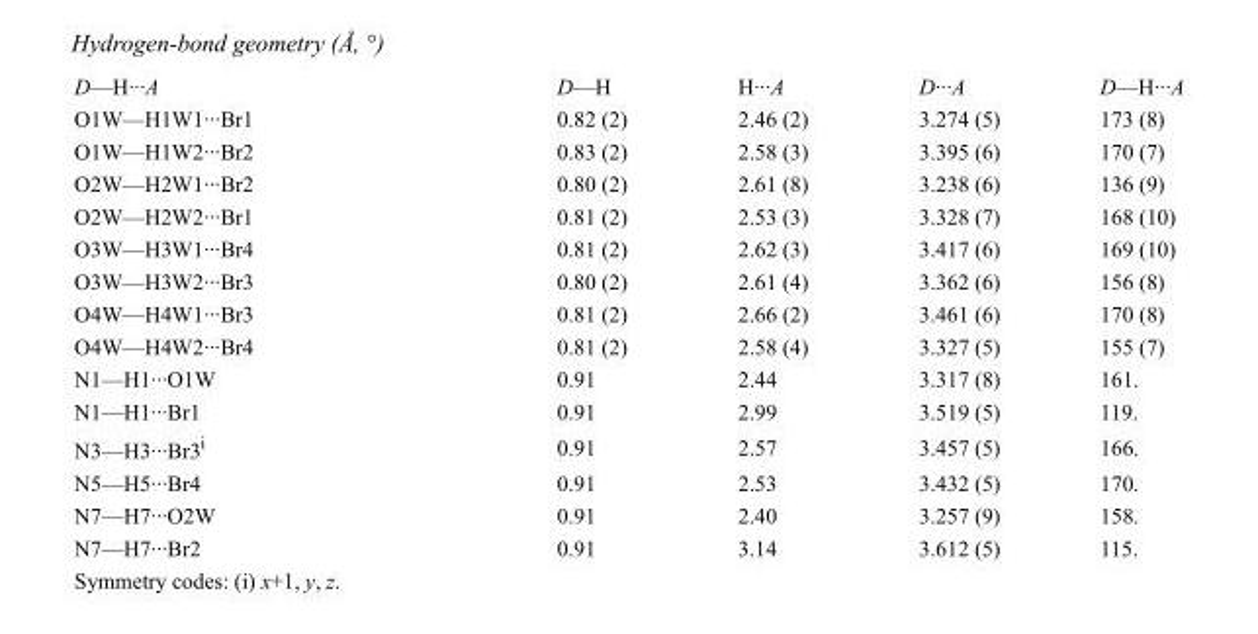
<table><tbody><tr><td>D—H···A</td><td>D—H</td><td>H···A</td><td>D···A</td><td>D—H···A</td></tr><tr><td>O1W—H1W1···Br1</td><td>0.82 (2)</td><td>2.46 (2)</td><td>3.274 (5)</td><td>173 (8)</td></tr><tr><td>O1W—H1W2···Br2</td><td>0.83 (2)</td><td>2.58 (3)</td><td>3.395 (6)</td><td>170 (7)</td></tr><tr><td>O2W—H2W1···Br2</td><td>0.80 (2)</td><td>2.61 (8)</td><td>3.238 (6)</td><td>136 (9)</td></tr><tr><td>O2W—H2W2···Br1</td><td>0.81 (2)</td><td>2.53 (3)</td><td>3.328 (7)</td><td>168 (10)</td></tr><tr><td>O3W—H3W1···Br4</td><td>0.81 (2)</td><td>2.62 (3)</td><td>3.417 (6)</td><td>169 (10)</td></tr><tr><td>O3W—H3W2···Br3</td><td>0.80 (2)</td><td>2.61 (4)</td><td>3.362 (6)</td><td>156 (8)</td></tr><tr><td>O4W—H4W1···Br3</td><td>0.81 (2)</td><td>2.66 (2)</td><td>3.461 (6)</td><td>170 (8)</td></tr><tr><td>O4W—H4W2···Br4</td><td>0.81 (2)</td><td>2.58 (4)</td><td>3.327 (5)</td><td>155 (7)</td></tr><tr><td>N1—H1···O1W</td><td>0.91</td><td>2.44</td><td>3.317 (8)</td><td>161.</td></tr><tr><td>N1—H1···Br1</td><td>0.91</td><td>2.99</td><td>3.519 (5)</td><td>119.</td></tr><tr><td>N3—H3···Br3<sup>i</sup></td><td>0.91</td><td>2.57</td><td>3.457 (5)</td><td>166.</td></tr><tr><td>N5—H5···Br4</td><td>0.91</td><td>2.53</td><td>3.432 (5)</td><td>170.</td></tr><tr><td>N7—H7···O2W</td><td>0.91</td><td>2.40</td><td>3.257 (9)</td><td>158.</td></tr><tr><td>N7—H7···Br2</td><td>0.91</td><td>3.14</td><td>3.612 (5)</td><td>115.</td></tr></tbody></table>